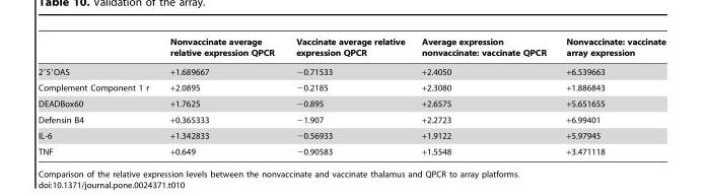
<table><thead><tr><td></td><td>Nonvaccinate average relative expression QPCR</td><td>Vaccinate average relative expression QPCR</td><td>Average expression nonvaccinate: vaccinate QPCR</td><td>Nonvaccinate: vaccinate array expression</td></tr></thead><tbody><tr><td>2′5′OAS</td><td>+1.689667</td><td>−0.71533</td><td>+2.4050</td><td>+6.539663</td></tr><tr><td>Complement Component 1 r</td><td>+2.0895</td><td>−0.2185</td><td>+2.3080</td><td>+1.886843</td></tr><tr><td>DEADBox60</td><td>+1.7625</td><td>−0.895</td><td>+2.6575</td><td>+5.651655</td></tr><tr><td>Defensin B4</td><td>+0.365333</td><td>−1.907</td><td>+2.2723</td><td>+6.99401</td></tr><tr><td>IL-6</td><td>+1.342833</td><td>−0.56933</td><td>+1.9122</td><td>+5.97945</td></tr><tr><td>TNF</td><td>+0.649</td><td>−0.90583</td><td>+1.5548</td><td>+3.471118</td></tr></tbody></table>